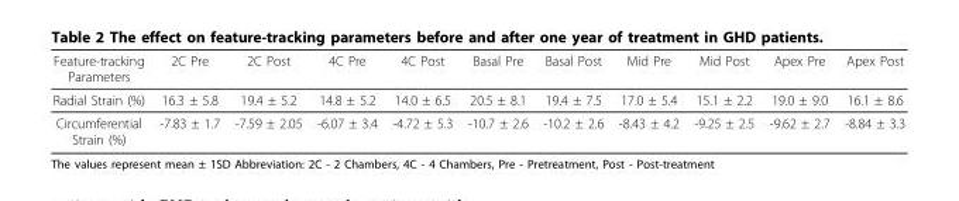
<table><thead><tr><td>Feature-tracking Parameters</td><td>2C Pre</td><td>2C Post</td><td>4C Pre</td><td>4C Post</td><td>Basal Pre</td><td>Basal Post</td><td>Mid Pre</td><td>Mid Post</td><td>Apex Pre</td><td>Apex Post</td></tr></thead><tbody><tr><td>Radial Strain (%)</td><td>16.3 ± 5.8</td><td>19.4 ± 5.2</td><td>14.8 ± 5.2</td><td>14.0 ± 6.5</td><td>20.5 ± 8.1</td><td>19.4 ± 7.5</td><td>17.0 ± 5.4</td><td>15.1 ± 2.2</td><td>19.0 ± 9.0</td><td>16.1 ± 8.6</td></tr><tr><td>Circumferential Strain (%)</td><td>-7.83 ± 1.7</td><td>-7.59 ± 2.05</td><td>-6.07 ± 3.4</td><td>-4.72 ± 5.3</td><td>-10.7 ± 2.6</td><td>-10.2 ± 2.6</td><td>-8.43 ± 4.2</td><td>-9.25 ± 2.5</td><td>-9.62 ± 2.7</td><td>-8.84 ± 3.3</td></tr></tbody></table>